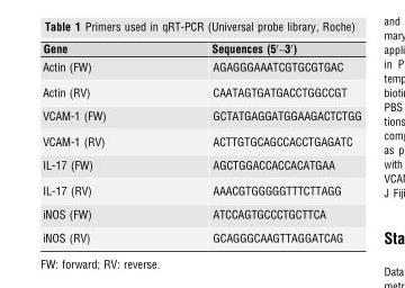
<table><thead><tr><td>Gene</td><td>Sequences (5′–3′)</td></tr></thead><tbody><tr><td>Actin (FW)</td><td>AGAGGGAAATCGTGCGTGAC</td></tr><tr><td>Actin (RV)</td><td>CAATAGTGATGACCTGGCCGT</td></tr><tr><td>VCAM-1 (FW)</td><td>GCTATGAGGATGGAAGACTCTGG</td></tr><tr><td>VCAM-1 (RV)</td><td>ACTTGTGCAGCCACCTGAGATC</td></tr><tr><td>IL-17 (FW)</td><td>AGCTGGACCACCACATGAA</td></tr><tr><td>IL-17 (RV)</td><td>AAACGTGGGGGTTTCTTAGG</td></tr><tr><td>iNOS (FW)</td><td>ATCCAGTGCCCTGCTTCA</td></tr><tr><td>iNOS (RV)</td><td>GCAGGGCAAGTTAGGATCAG</td></tr></tbody></table>